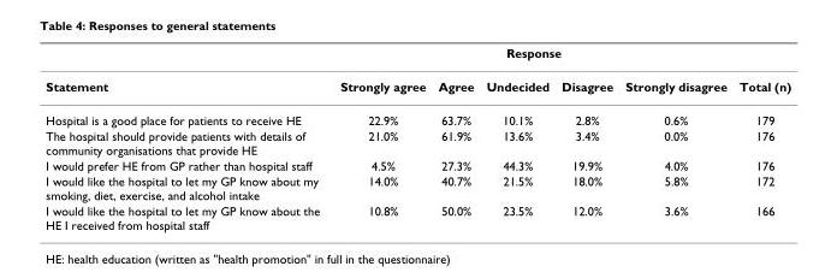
<table><thead><tr><td rowspan="2">Statement</td><td colspan="5">Response</td><td rowspan="2">Total (n)</td></tr><tr><td>Strongly agree</td><td>Agree</td><td>Undecided</td><td>Disagree</td><td>Strongly disagree</td></tr></thead><tbody><tr><td>Hospital is a good place for patients to receive HE</td><td>22.9%</td><td>63.7%</td><td>10.1%</td><td>2.8%</td><td>0.6%</td><td>179</td></tr><tr><td>The hospital should provide patients with details of community organisations that provide HE</td><td>21.0%</td><td>61.9%</td><td>13.6%</td><td>3.4%</td><td>0.0%</td><td>176</td></tr><tr><td>I would prefer HE from GP rather than hospital staff</td><td>4.5%</td><td>27.3%</td><td>44.3%</td><td>19.9%</td><td>4.0%</td><td>176</td></tr><tr><td>I would like the hospital to let my GP know about my smoking, diet, exercise, and alcohol intake</td><td>14.0%</td><td>40.7%</td><td>21.5%</td><td>18.0%</td><td>5.8%</td><td>172</td></tr><tr><td>I would like the hospital to let my GP know about the HE I received from hospital staff</td><td>10.8%</td><td>50.0%</td><td>23.5%</td><td>12.0%</td><td>3.6%</td><td>166</td></tr></tbody></table>